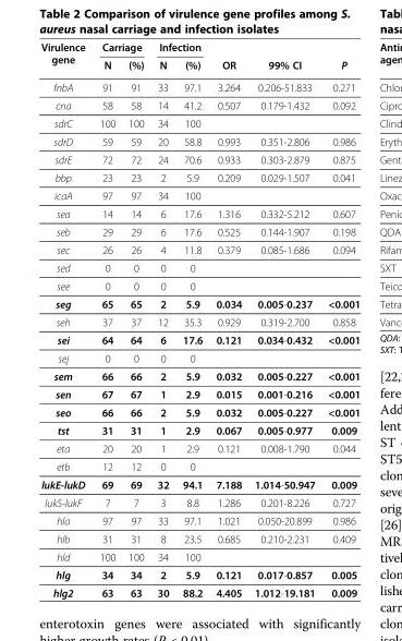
<table><thead><tr><td rowspan="2">Virulence gene</td><td colspan="2">Carriage</td><td colspan="2">Infection</td><td rowspan="2">OR</td><td rowspan="2">99% CI</td><td rowspan="2">P</td></tr><tr><td>N</td><td>(%)</td><td>N</td><td>(%)</td></tr></thead><tbody><tr><td>fnbA</td><td>91</td><td>91</td><td>33</td><td>97.1</td><td>3.264</td><td>0.206-51.833</td><td>0.271</td></tr><tr><td>cna</td><td>58</td><td>58</td><td>14</td><td>41.2</td><td>0.507</td><td>0.179-1.432</td><td>0.092</td></tr><tr><td>sdrC</td><td>100</td><td>100</td><td>34</td><td>100</td><td></td><td></td><td></td></tr><tr><td>sdrD</td><td>59</td><td>59</td><td>20</td><td>58.8</td><td>0.993</td><td>0.351-2.806</td><td>0.986</td></tr><tr><td>sdrE</td><td>72</td><td>72</td><td>24</td><td>70.6</td><td>0.933</td><td>0.303-2.879</td><td>0.875</td></tr><tr><td>bbp</td><td>23</td><td>23</td><td>2</td><td>5.9</td><td>0.209</td><td>0.029-1.507</td><td>0.041</td></tr><tr><td>icaA</td><td>97</td><td>97</td><td>34</td><td>100</td><td></td><td></td><td></td></tr><tr><td>sea</td><td>14</td><td>14</td><td>6</td><td>17.6</td><td>1.316</td><td>0.332-5.212</td><td>0.607</td></tr><tr><td>seb</td><td>29</td><td>29</td><td>6</td><td>17.6</td><td>0.525</td><td>0.144-1.907</td><td>0.198</td></tr><tr><td>sec</td><td>26</td><td>26</td><td>4</td><td>11.8</td><td>0.379</td><td>0.085-1.686</td><td>0.094</td></tr><tr><td>sed</td><td>0</td><td>0</td><td>0</td><td>0</td><td></td><td></td><td></td></tr><tr><td>see</td><td>0</td><td>0</td><td>0</td><td>0</td><td></td><td></td><td></td></tr><tr><td>seg</td><td>65</td><td>65</td><td>2</td><td>5.9</td><td>0.034</td><td>0.005-0.237</td><td>&lt;0.001</td></tr><tr><td>seh</td><td>37</td><td>37</td><td>12</td><td>35.3</td><td>0.929</td><td>0.319-2.700</td><td>0.858</td></tr><tr><td>sei</td><td>64</td><td>64</td><td>6</td><td>17.6</td><td>0.121</td><td>0.034-0.432</td><td>&lt;0.001</td></tr><tr><td>sej</td><td>0</td><td>0</td><td>0</td><td>0</td><td></td><td></td><td></td></tr><tr><td>sem</td><td>66</td><td>66</td><td>2</td><td>5.9</td><td>0.032</td><td>0.005-0.227</td><td>&lt;0.001</td></tr><tr><td>sen</td><td>67</td><td>67</td><td>1</td><td>2.9</td><td>0.015</td><td>0.001-0.216</td><td>&lt;0.001</td></tr><tr><td>seo</td><td>66</td><td>66</td><td>2</td><td>5.9</td><td>0.032</td><td>0.005-0.227</td><td>&lt;0.001</td></tr><tr><td>tst</td><td>31</td><td>31</td><td>1</td><td>2.9</td><td>0.067</td><td>0.005-0.977</td><td>0.009</td></tr><tr><td>eta</td><td>20</td><td>20</td><td>1</td><td>2.9</td><td>0.121</td><td>0.008-1.790</td><td>0.044</td></tr><tr><td>etb</td><td>12</td><td>12</td><td>0</td><td>0</td><td></td><td></td><td></td></tr><tr><td>lukE-lukD</td><td>69</td><td>69</td><td>32</td><td>94.1</td><td>7.188</td><td>1.014-50.947</td><td>0.009</td></tr><tr><td>lukS-lukF</td><td>7</td><td>7</td><td>3</td><td>8.8</td><td>1.286</td><td>0.201-8.226</td><td>0.727</td></tr><tr><td>hla</td><td>97</td><td>97</td><td>33</td><td>97.1</td><td>1.021</td><td>0.050-20.899</td><td>0.986</td></tr><tr><td>hlb</td><td>31</td><td>31</td><td>8</td><td>23.5</td><td>0.685</td><td>0.210-2.231</td><td>0.409</td></tr><tr><td>hld</td><td>100</td><td>100</td><td>34</td><td>100</td><td></td><td></td><td></td></tr><tr><td>hlg</td><td>34</td><td>34</td><td>2</td><td>5.9</td><td>0.121</td><td>0.017-0.857</td><td>0.005</td></tr><tr><td>hlg2</td><td>63</td><td>63</td><td>30</td><td>88.2</td><td>4.405</td><td>1.012-19.181</td><td>0.009</td></tr></tbody></table>